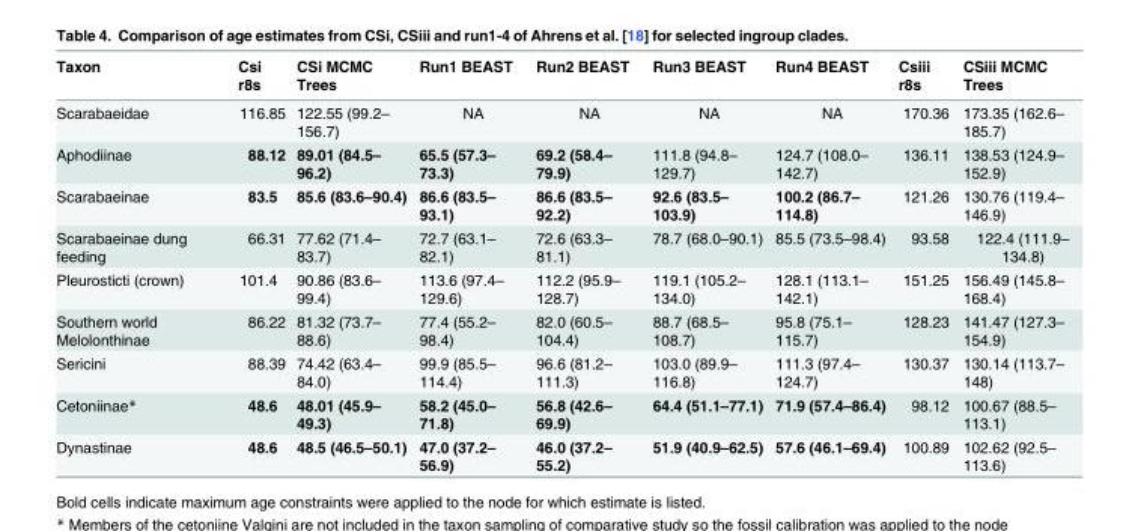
<table><thead><tr><td>Taxon</td><td>Csi r8s</td><td>CSi MCMC Trees</td><td>Run1 BEAST</td><td>Run2 BEAST</td><td>Run3 BEAST</td><td>Run4 BEAST</td><td>Csiii r8s</td><td>CSiii MCMC Trees</td></tr></thead><tbody><tr><td>Scarabaeidae</td><td>116.85</td><td>122.55 (99.2– 156.7)</td><td>NA</td><td>NA</td><td>NA</td><td>NA</td><td>170.36</td><td>173.35 (162.6– 185.7)</td></tr><tr><td>Aphodiinae</td><td>88.12</td><td>89.01 (84.5– 96.2)</td><td>65.5 (57.3– 73.3)</td><td>69.2 (58.4– 79.9)</td><td>111.8 (94.8– 129.7)</td><td>124.7 (108.0– 142.7)</td><td>136.11</td><td>138.53 (124.9– 152.9)</td></tr><tr><td>Scarabaeinae</td><td>83.5</td><td>85.6 (83.6–90.4)</td><td>86.6 (83.5– 93.1)</td><td>86.6 (83.5– 92.2)</td><td>92.6 (83.5– 103.9)</td><td>100.2 (86.7– 114.8)</td><td>121.26</td><td>130.76 (119.4– 146.9)</td></tr><tr><td>Scarabaeinae dung feeding</td><td>66.31</td><td>77.62 (71.4– 83.7)</td><td>72.7 (63.1– 82.1)</td><td>72.6 (63.3– 81.1)</td><td>78.7 (68.0–90.1)</td><td>85.5 (73.5–98.4)</td><td>93.58</td><td>122.4 (111.9– 134.8)</td></tr><tr><td>Pleurosticti (crown)</td><td>101.4</td><td>90.86 (83.6– 99.4)</td><td>113.6 (97.4– 129.6)</td><td>112.2 (95.9– 128.7)</td><td>119.1 (105.2– 134.0)</td><td>128.1 (113.1– 142.1)</td><td>151.25</td><td>156.49 (145.8– 168.4)</td></tr><tr><td>Southern world Melolonthinae</td><td>86.22</td><td>81.32 (73.7– 88.6)</td><td>77.4 (55.2– 98.4)</td><td>82.0 (60.5– 104.4)</td><td>88.7 (68.5– 108.7)</td><td>95.8 (75.1– 115.7)</td><td>128.23</td><td>141.47 (127.3– 154.9)</td></tr><tr><td>Sericini</td><td>88.39</td><td>74.42 (63.4– 84.0)</td><td>99.9 (85.5– 114.4)</td><td>96.6 (81.2– 111.3)</td><td>103.0 (89.9– 116.8)</td><td>111.3 (97.4– 124.7)</td><td>130.37</td><td>130.14 (113.7– 148)</td></tr><tr><td>Cetoniinae*</td><td>48.6</td><td>48.01 (45.9– 49.3)</td><td>58.2 (45.0– 71.8)</td><td>56.8 (42.6– 69.9)</td><td>64.4 (51.1–77.1)</td><td>71.9 (57.4–86.4)</td><td>98.12</td><td>100.67 (88.5– 113.1)</td></tr><tr><td>Dynastinae</td><td>48.6</td><td>48.5 (46.5–50.1)</td><td>47.0 (37.2– 56.9)</td><td>46.0 (37.2– 55.2)</td><td>51.9 (40.9–62.5)</td><td>57.6 (46.1–69.4)</td><td>100.89</td><td>102.62 (92.5– 113.6)</td></tr></tbody></table>